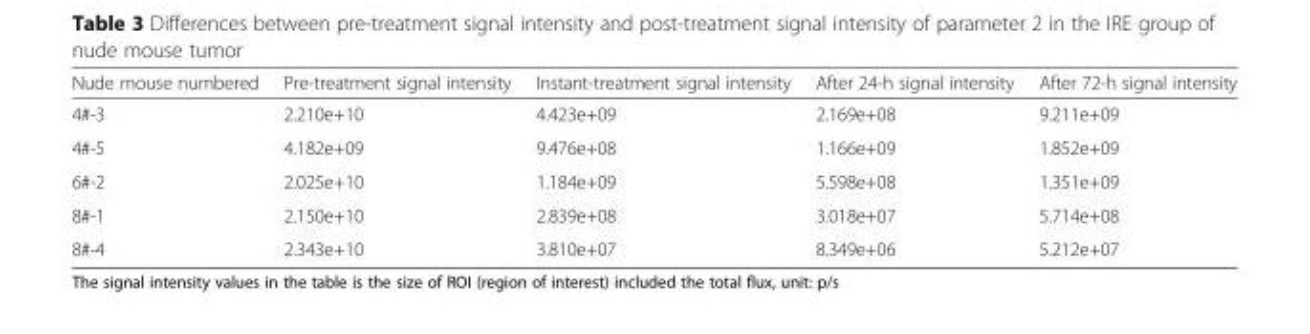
<table><thead><tr><td>Nude mouse numbered</td><td>Pre-treatment signal intensity</td><td>Instant-treatment signal intensity</td><td>After 24-h signal intensity</td><td>After 72-h signal intensity</td></tr></thead><tbody><tr><td>4#-3</td><td>2.210e+10</td><td>4.423e+09</td><td>2.169e+08</td><td>9.211e+09</td></tr><tr><td>4#-5</td><td>4.182e+09</td><td>9.476e+08</td><td>1.166e+09</td><td>1.852e+09</td></tr><tr><td>6#-2</td><td>2.025e+10</td><td>1.184e+09</td><td>5.598e+08</td><td>1.351e+09</td></tr><tr><td>8#-1</td><td>2.150e+10</td><td>2.839e+08</td><td>3.018e+07</td><td>5.714e+08</td></tr><tr><td>8#-4</td><td>2.343e+10</td><td>3.810e+07</td><td>8.349e+06</td><td>5.212e+07</td></tr></tbody></table>